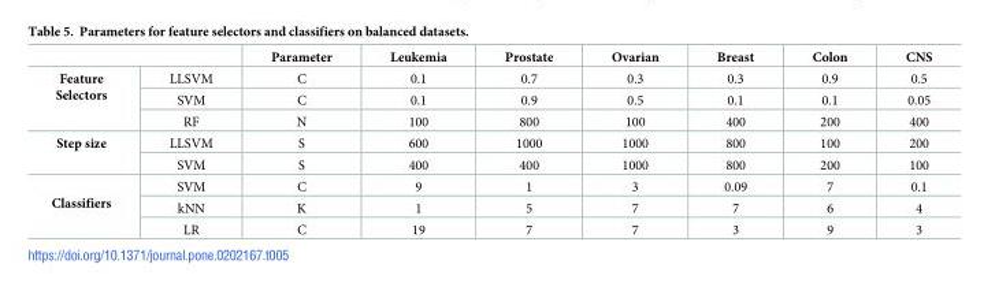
<table><thead><tr><td></td><td></td><td>Parameter</td><td>Leukemia</td><td>Prostate</td><td>Ovarian</td><td>Breast</td><td>Colon</td><td>CNS</td></tr></thead><tbody><tr><td rowspan="3">Feature Selectors</td><td>LLSVM</td><td>C</td><td>0.1</td><td>0.7</td><td>0.3</td><td>0.3</td><td>0.9</td><td>0.5</td></tr><tr><td>SVM</td><td>C</td><td>0.1</td><td>0.9</td><td>0.5</td><td>0.1</td><td>0.1</td><td>0.05</td></tr><tr><td>RF</td><td>N</td><td>100</td><td>800</td><td>100</td><td>400</td><td>200</td><td>400</td></tr><tr><td rowspan="2">Step size</td><td>LLSVM</td><td>S</td><td>600</td><td>1000</td><td>1000</td><td>800</td><td>100</td><td>200</td></tr><tr><td>SVM</td><td>S</td><td>400</td><td>400</td><td>1000</td><td>800</td><td>200</td><td>100</td></tr><tr><td rowspan="3">Classifiers</td><td>SVM</td><td>C</td><td>9</td><td>1</td><td>3</td><td>0.09</td><td>7</td><td>0.1</td></tr><tr><td>kNN</td><td>K</td><td>1</td><td>5</td><td>7</td><td>7</td><td>6</td><td>4</td></tr><tr><td>LR</td><td>C</td><td>19</td><td>7</td><td>7</td><td>3</td><td>9</td><td>3</td></tr></tbody></table>